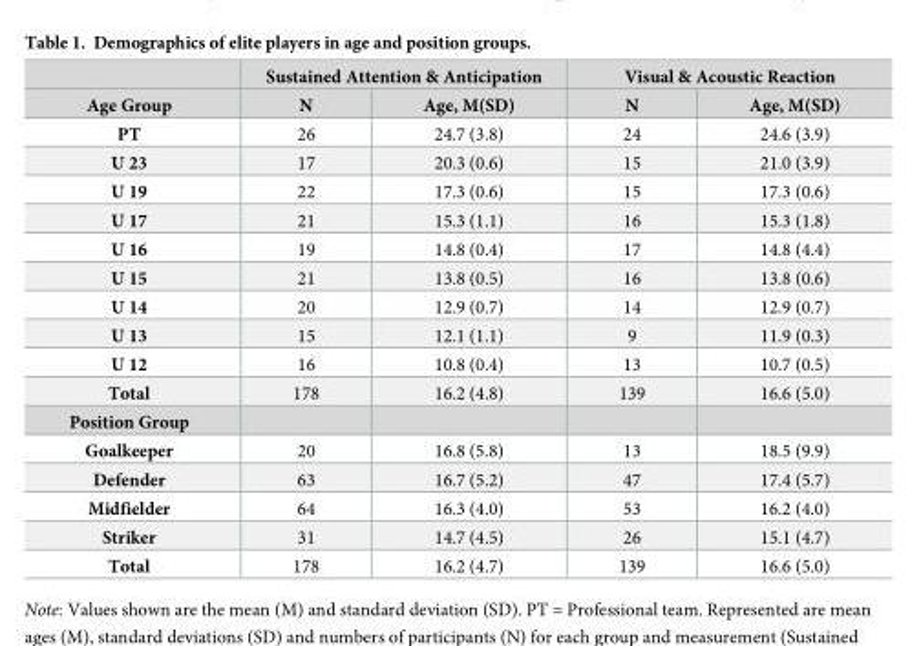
<table><thead><tr><td rowspan="2">Age Group</td><td colspan="2">Sustained Attention &amp; Anticipation</td><td colspan="2">Visual &amp; Acoustic Reaction</td></tr><tr><td>N</td><td>Age, M(SD)</td><td>N</td><td>Age, M(SD)</td></tr></thead><tbody><tr><td>PT</td><td>26</td><td>24.7 (3.8)</td><td>24</td><td>24.6 (3.9)</td></tr><tr><td>U 23</td><td>17</td><td>20.3 (0.6)</td><td>15</td><td>21.0 (3.9)</td></tr><tr><td>U 19</td><td>22</td><td>17.3 (0.6)</td><td>15</td><td>17.3 (0.6)</td></tr><tr><td>U 17</td><td>21</td><td>15.3 (1.1)</td><td>16</td><td>15.3 (1.8)</td></tr><tr><td>U 16</td><td>19</td><td>14.8 (0.4)</td><td>17</td><td>14.8 (4.4)</td></tr><tr><td>U 15</td><td>21</td><td>13.8 (0.5)</td><td>16</td><td>13.8 (0.6)</td></tr><tr><td>U 14</td><td>20</td><td>12.9 (0.7)</td><td>14</td><td>12.9 (0.7)</td></tr><tr><td>U 13</td><td>15</td><td>12.1 (1.1)</td><td>9</td><td>11.9 (0.3)</td></tr><tr><td>U 12</td><td>16</td><td>10.8 (0.4)</td><td>13</td><td>10.7 (0.5)</td></tr><tr><td>Total</td><td>178</td><td>16.2 (4.8)</td><td>139</td><td>16.6 (5.0)</td></tr><tr><td colspan="5">Position Group</td></tr><tr><td>Goalkeeper</td><td>20</td><td>16.8 (5.8)</td><td>13</td><td>18.5 (9.9)</td></tr><tr><td>Defender</td><td>63</td><td>16.7 (5.2)</td><td>47</td><td>17.4 (5.7)</td></tr><tr><td>Midfielder</td><td>64</td><td>16.3 (4.0)</td><td>53</td><td>16.2 (4.0)</td></tr><tr><td>Striker</td><td>31</td><td>14.7 (4.5)</td><td>26</td><td>15.1 (4.7)</td></tr><tr><td>Total</td><td>178</td><td>16.2 (4.7)</td><td>139</td><td>16.6 (5.0)</td></tr></tbody></table>